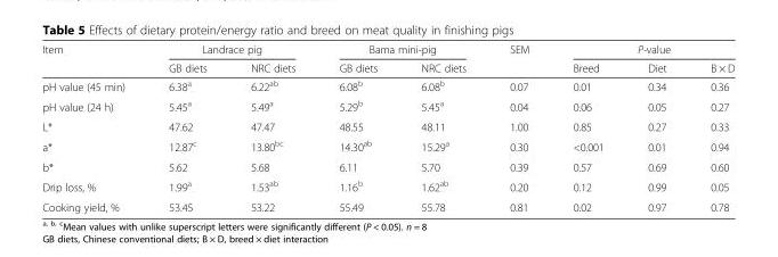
<table><thead><tr><td rowspan="2">Item</td><td colspan="2">Landrace pig</td><td colspan="2">Bama mini-pig</td><td rowspan="2">SEM</td><td colspan="3">P-value</td></tr><tr><td>GB diets</td><td>NRC diets</td><td>GB diets</td><td>NRC diets</td><td>Breed</td><td>Diet</td><td>B × D</td></tr></thead><tbody><tr><td>pH value (45 min)</td><td>6.38<sup>a</sup></td><td>6.22<sup>ab</sup></td><td>6.08<sup>b</sup></td><td>6.08<sup>b</sup></td><td>0.07</td><td>0.01</td><td>0.34</td><td>0.36</td></tr><tr><td>pH value (24 h)</td><td>5.45<sup>a</sup></td><td>5.49<sup>a</sup></td><td>5.29<sup>b</sup></td><td>5.45<sup>a</sup></td><td>0.04</td><td>0.06</td><td>0.05</td><td>0.27</td></tr><tr><td>L*</td><td>47.62</td><td>47.47</td><td>48.55</td><td>48.11</td><td>1.00</td><td>0.85</td><td>0.27</td><td>0.33</td></tr><tr><td>a*</td><td>12.87<sup>c</sup></td><td>13.80<sup>bc</sup></td><td>14.30<sup>ab</sup></td><td>15.29<sup>a</sup></td><td>0.30</td><td>&lt;0.001</td><td>0.01</td><td>0.94</td></tr><tr><td>b*</td><td>5.62</td><td>5.68</td><td>6.11</td><td>5.70</td><td>0.39</td><td>0.57</td><td>0.69</td><td>0.60</td></tr><tr><td>Drip loss, %</td><td>1.99<sup>a</sup></td><td>1.53<sup>ab</sup></td><td>1.16<sup>b</sup></td><td>1.62<sup>ab</sup></td><td>0.20</td><td>0.12</td><td>0.99</td><td>0.05</td></tr><tr><td>Cooking yield, %</td><td>53.45</td><td>53.22</td><td>55.49</td><td>55.78</td><td>0.81</td><td>0.02</td><td>0.97</td><td>0.78</td></tr></tbody></table>